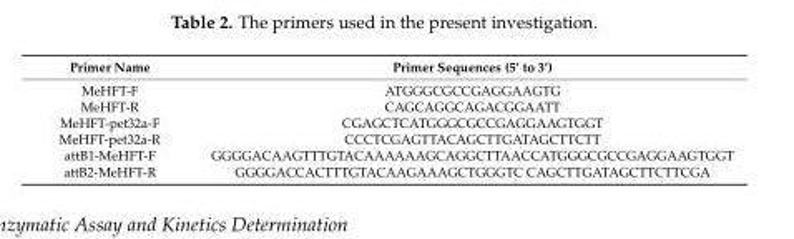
<table><thead><tr><td>Primer Name</td><td>Primer Sequences (5’ to 3’)</td></tr></thead><tbody><tr><td>MeHFT-F</td><td>ATGGGCGCCGAGGAAGTG</td></tr><tr><td>MeHFT-R</td><td>CAGCAGGCAGACGGAATT</td></tr><tr><td>MeHFT-pet32a-F</td><td>CGAGCTCATGGGCGCCGAGGAAGTGGT</td></tr><tr><td>MeHFT-pet32a-R</td><td>CCCTCGAGTTACAGCTTGATAGCTTCTT</td></tr><tr><td>attB1-MeHFT-F</td><td>GGGGACAAGTTTGTACAAAAAAGCAGGCTTAACCATGGGCGCCGAGGAAGTGGT</td></tr><tr><td>attB2-MeHFT-R</td><td>GGGGACCACTTTGTACAAGAAAGCTGGGTC CAGCTTGATAGCTTCTTCGA</td></tr></tbody></table>